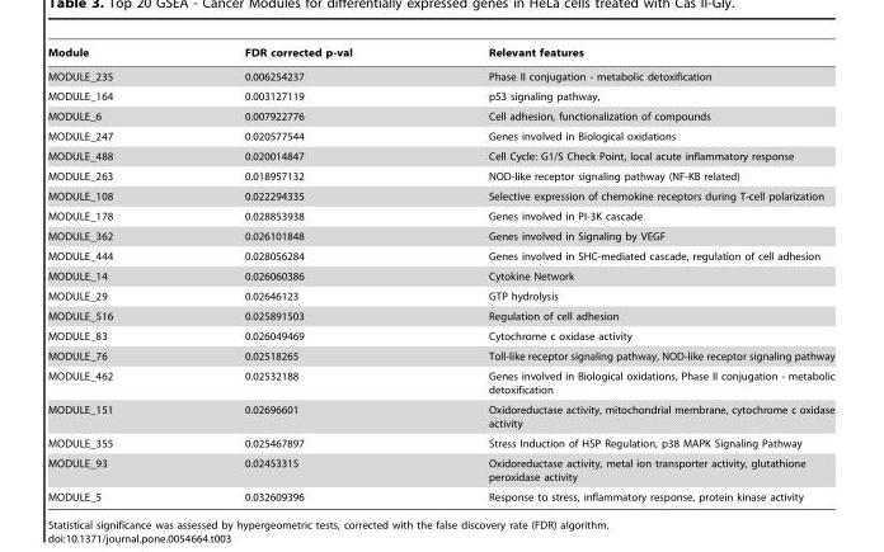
<table><thead><tr><td>Module</td><td>FDR corrected p-val</td><td>Relevant features</td></tr></thead><tbody><tr><td>MODULE_235</td><td>0.006254237</td><td>Phase II conjugation - metabolic detoxification</td></tr><tr><td>MODULE_164</td><td>0.003127119</td><td>p53 signaling pathway,</td></tr><tr><td>MODULE_6</td><td>0.007922776</td><td>Cell adhesion, functionalization of compounds</td></tr><tr><td>MODULE_247</td><td>0.020577544</td><td>Genes involved in Biological oxidations</td></tr><tr><td>MODULE_488</td><td>0.020014847</td><td>Cell Cycle: G1/S Check Point, local acute inflammatory response</td></tr><tr><td>MODULE_263</td><td>0.018957132</td><td>NOD-like receptor signaling pathway (NF-KB related)</td></tr><tr><td>MODULE_108</td><td>0.022294335</td><td>Selective expression of chemokine receptors during T-cell polarization</td></tr><tr><td>MODULE_178</td><td>0.028853938</td><td>Genes involved in PI-3K cascade</td></tr><tr><td>MODULE_362</td><td>0.026101848</td><td>Genes involved in Signaling by VEGF</td></tr><tr><td>MODULE_444</td><td>0.028056284</td><td>Genes involved in SHC-mediated cascade, regulation of cell adhesion</td></tr><tr><td>MODULE_14</td><td>0.026060386</td><td>Cytokine Network</td></tr><tr><td>MODULE_29</td><td>0.02646123</td><td>GTP hydrolysis</td></tr><tr><td>MODULE_516</td><td>0.025891503</td><td>Regulation of cell adhesion</td></tr><tr><td>MODULE_83</td><td>0.026049469</td><td>Cytochrome c oxidase activity</td></tr><tr><td>MODULE_76</td><td>0.02518265</td><td>Toll-like receptor signaling pathway, NOD-like receptor signaling pathway</td></tr><tr><td>MODULE_462</td><td>0.02532188</td><td>Genes involved in Biological oxidations, Phase II conjugation - metabolic detoxification</td></tr><tr><td>MODULE_151</td><td>0.02696601</td><td>Oxidoreductase activity, mitochondrial membrane, cytochrome c oxidase activity</td></tr><tr><td>MODULE_355</td><td>0.025467897</td><td>Stress Induction of HSP Regulation, p38 MAPK Signaling Pathway</td></tr><tr><td>MODULE_93</td><td>0.02453315</td><td>Oxidoreductase activity, metal ion transporter activity, glutathione peroxidase activity</td></tr><tr><td>MODULE_5</td><td>0.032609396</td><td>Response to stress, inflammatory response, protein kinase activity</td></tr></tbody></table>